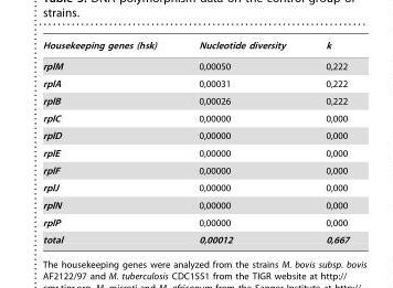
<table><thead><tr><td>Housekeeping genes (hsk)</td><td>Nucleotide diversity</td><td>k</td></tr></thead><tbody><tr><td>rplM</td><td>0,00050</td><td>0,222</td></tr><tr><td>rplA</td><td>0,00031</td><td>0,222</td></tr><tr><td>rplB</td><td>0,00026</td><td>0,222</td></tr><tr><td>rplC</td><td>0,00000</td><td>0,000</td></tr><tr><td>rplD</td><td>0,00000</td><td>0,000</td></tr><tr><td>rplE</td><td>0,00000</td><td>0,000</td></tr><tr><td>rplF</td><td>0,00000</td><td>0,000</td></tr><tr><td>rplJ</td><td>0,00000</td><td>0,000</td></tr><tr><td>rplN</td><td>0,00000</td><td>0,000</td></tr><tr><td>rplP</td><td>0,00000</td><td>0,000</td></tr><tr><td>total</td><td>0,00012</td><td>0,667</td></tr></tbody></table>